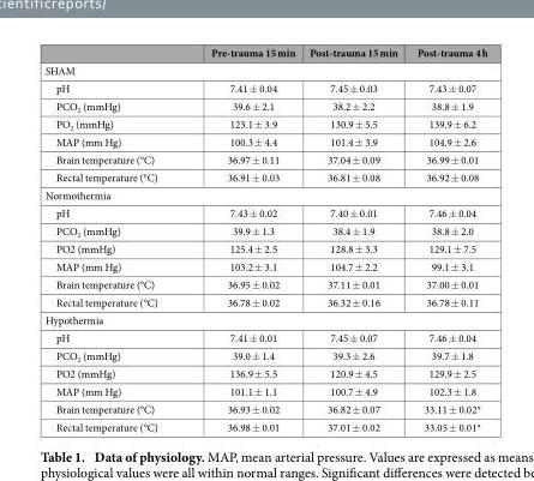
<table><thead><tr><td></td><td>Pre-trauma 15 min</td><td>Post-trauma 15 min</td><td>Post-trauma 4 h</td></tr></thead><tbody><tr><td colspan="4">SHAM</td></tr><tr><td>pH</td><td>7.41 ± 0.04</td><td>7.45 ± 0.03</td><td>7.43 ± 0.07</td></tr><tr><td>PCO<sub>2</sub> (mmHg)</td><td>39.6 ± 2.1</td><td>38.2 ± 2.2</td><td>38.8 ± 1.9</td></tr><tr><td>PO<sub>2</sub> (mmHg)</td><td>123.1 ± 3.9</td><td>130.9 ± 5.5</td><td>139.9 ± 6.2</td></tr><tr><td>MAP (mm Hg)</td><td>100.3 ± 4.4</td><td>101.4 ± 3.9</td><td>104.9 ± 2.6</td></tr><tr><td>Brain temperature (°C)</td><td>36.97 ± 0.11</td><td>37.04 ± 0.09</td><td>36.99 ± 0.01</td></tr><tr><td>Rectal temperature (°C)</td><td>36.91 ± 0.03</td><td>36.81 ± 0.08</td><td>36.92 ± 0.08</td></tr><tr><td colspan="4">Normothermia</td></tr><tr><td>pH</td><td>7.43 ± 0.02</td><td>7.40 ± 0.01</td><td>7.46 ± 0.04</td></tr><tr><td>PCO<sub>2</sub> (mmHg)</td><td>39.9 ± 1.3</td><td>38.4 ± 1.9</td><td>38.8 ± 2.0</td></tr><tr><td>PO2 (mmHg)</td><td>125.4 ± 2.5</td><td>128.8 ± 3.3</td><td>129.1 ± 7.5</td></tr><tr><td>MAP (mm Hg)</td><td>103.2 ± 3.1</td><td>104.7 ± 2.2</td><td>99.1 ± 3.1</td></tr><tr><td>Brain temperature (°C)</td><td>36.95 ± 0.02</td><td>37.11 ± 0.01</td><td>37.00 ± 0.01</td></tr><tr><td>Rectal temperature (°C)</td><td>36.78 ± 0.02</td><td>36.32 ± 0.16</td><td>36.78 ± 0.11</td></tr><tr><td colspan="4">Hypothermia</td></tr><tr><td>pH</td><td>7.41 ± 0.01</td><td>7.45 ± 0.07</td><td>7.46 ± 0.04</td></tr><tr><td>PCO<sub>2</sub> (mmHg)</td><td>39.0 ± 1.4</td><td>39.3 ± 2.6</td><td>39.7 ± 1.8</td></tr><tr><td>PO2 (mmHg)</td><td>136.9 ± 5.5</td><td>120.9 ± 4.5</td><td>129.9 ± 2.5</td></tr><tr><td>MAP (mm Hg)</td><td>101.1 ± 1.1</td><td>100.7 ± 4.9</td><td>102.3 ± 1.8</td></tr><tr><td>Brain temperature (°C)</td><td>36.93 ± 0.02</td><td>36.82 ± 0.07</td><td>33.11 ± 0.02*</td></tr><tr><td>Rectal temperature (°C)</td><td>36.98 ± 0.01</td><td>37.01 ± 0.02</td><td>33.05 ± 0.01*</td></tr></tbody></table>